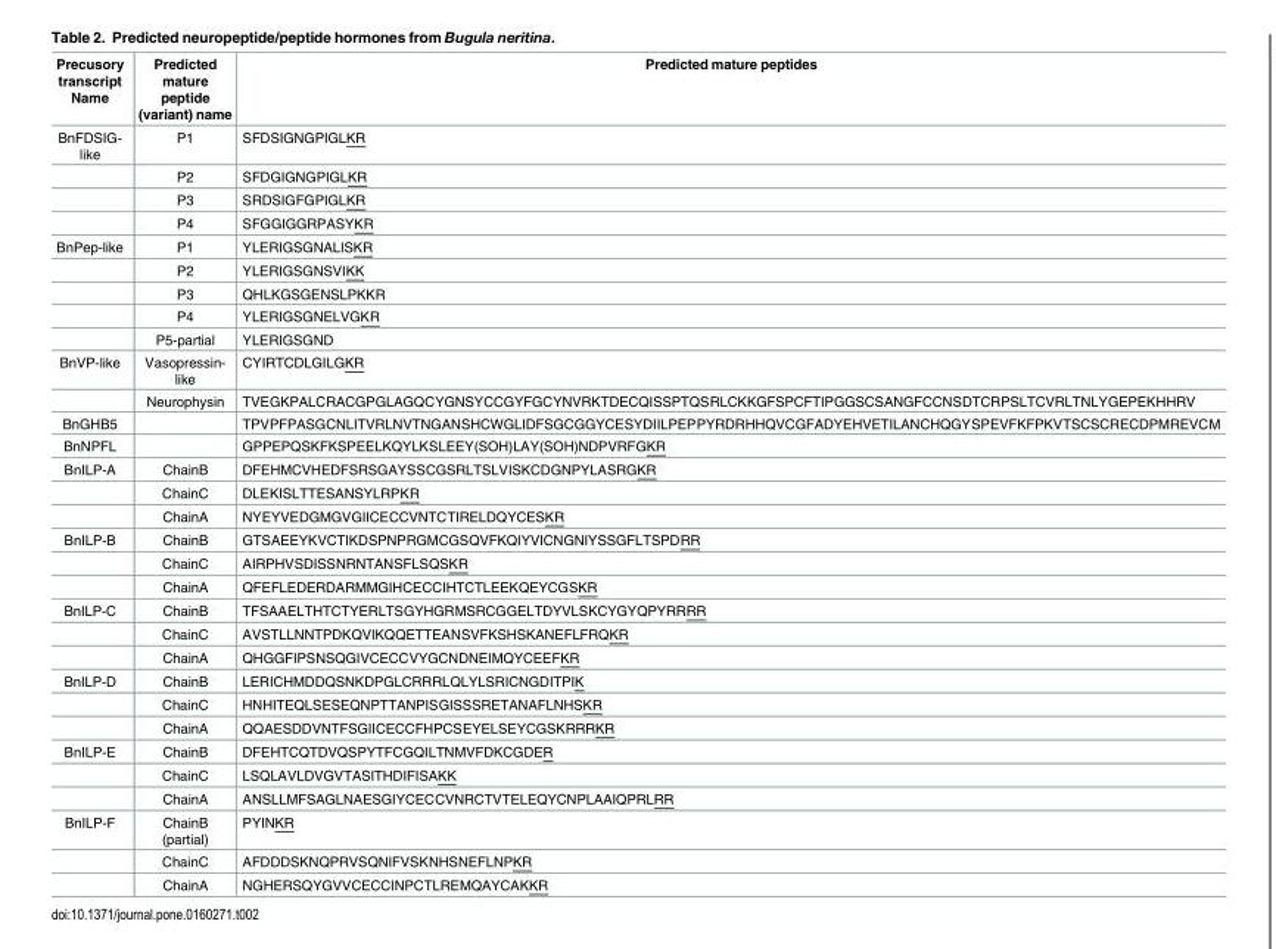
<table><thead><tr><td>Precusory transcript Name</td><td>Predicted mature peptide (variant) name</td><td>Predicted mature peptides</td></tr></thead><tbody><tr><td rowspan="4">BnFDSIG- like</td><td>P1</td><td>SFDSIGNGPIGLKR</td></tr><tr><td>P2</td><td>SFDGIGNGPIGLKR</td></tr><tr><td>P3</td><td>SRDSIGFGPIGLKR</td></tr><tr><td>P4</td><td>SFGGIGGRPASYKR</td></tr><tr><td rowspan="5">BnPep-like</td><td>P1</td><td>YLERIGSGNALISKR</td></tr><tr><td>P2</td><td>YLERIGSGNSVIKK</td></tr><tr><td>P3</td><td>QHLKGSGENSLPKKR</td></tr><tr><td>P4</td><td>YLERIGSGNELVGKR</td></tr><tr><td>P5-partial</td><td>YLERIGSGND</td></tr><tr><td rowspan="2">BnVP-like</td><td>Vasopressin- like</td><td>CYIRTCDLGILGKR</td></tr><tr><td>Neurophysin</td><td>TVEGKPALCRACGPGLAGQCYGNSYCCGYFGCYNVRKTDECQISSPTQSRLCKKGFSPCFTIPGGSCSANGFCCNSDTCRPSLTCVRLTNLYGEPEKHHRV</td></tr><tr><td>BnGHB5</td><td></td><td>TPVPFPASGCNLITVRLNVTNGANSHCWGLIDFSGCGGYCESYDIILPEPPYRDRHHQVCGFADYEHVETILANCHQGYSPEVFKFPKVTSCSCRECDPMREVCM</td></tr><tr><td>BnNPFL</td><td></td><td>GPPEPQSKFKSPEELKQYLKSLEEY(SOH)LAY(SOH)NDPVRFGKR</td></tr><tr><td rowspan="3">BnILP-A</td><td>ChainB</td><td>DFEHMCVHEDFSRSGAYSSCGSRLTSLVISKCDGNPYLASRGKR</td></tr><tr><td>ChainC</td><td>DLEKISLTTESANSYLRPKR</td></tr><tr><td>ChainA</td><td>NYEYVEDGMGVGIICECCVNTCTIRELDQYCESKR</td></tr><tr><td rowspan="3">BnILP-B</td><td>ChainB</td><td>GTSAEEYKVCTIKDSPNPRGMCGSQVFKQIYVICNGNIYSSGFLTSPDRR</td></tr><tr><td>ChainC</td><td>AIRPHVSDISSNRNTANSFLSQSKR</td></tr><tr><td>ChainA</td><td>QFEFLEDERDARMMGIHCECCIHTCTLEEKQEYCGSKR</td></tr><tr><td rowspan="3">BnILP-C</td><td>ChainB</td><td>TFSAAELTHTCTYERLTSGYHGRMSRCGGELTDYVLSKCYGYQPYRRRR</td></tr><tr><td>ChainC</td><td>AVSTLLNNTPDKQVIKQQETTEANSVFKSHSKANEFLFRQKR</td></tr><tr><td>ChainA</td><td>QHGGFIPSNSQGIVCECCVYGCNDNEIMQYCEEFKR</td></tr><tr><td rowspan="3">BnILP-D</td><td>ChainB</td><td>LERICHMDDQSNKDPGLCRRRLQLYLSRICNGDITPIK</td></tr><tr><td>ChainC</td><td>HNHITEQLSESEQNPTTANPISGISSSRETANAFLNHSKR</td></tr><tr><td>ChainA</td><td>QQAESDDVNTFSGIICECCFHPCSEYELSEYCGSKRRRKR</td></tr><tr><td rowspan="3">BnILP-E</td><td>ChainB</td><td>DFEHTCQTDVQSPYTFCGQILTNMVFDKCGDER</td></tr><tr><td>ChainC</td><td>LSQLAVLDVGVTASITHDIFISAKK</td></tr><tr><td>ChainA</td><td>ANSLLMFSAGLNAESGIYCECCVNRCTVTELEQYCNPLAAIQPRLRR</td></tr><tr><td rowspan="3">BnILP-F</td><td>ChainB (partial)</td><td>PYINKR</td></tr><tr><td>ChainC</td><td>AFDDDSKNQPRVSQNIFVSKNHSNEFLNPKR</td></tr><tr><td>ChainA</td><td>NGHERSQYGVVCECCINPCTLREMQAYCAKKR</td></tr></tbody></table>